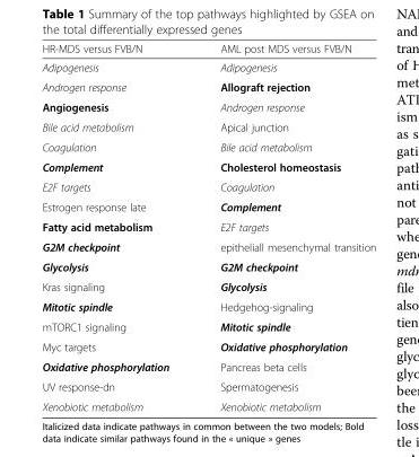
<table><thead><tr><td>HR-MDS versus FVB/N</td><td>AML post MDS versus FVB/N</td></tr></thead><tbody><tr><td>Adipogenesis</td><td>Adipogenesis</td></tr><tr><td>Androgen response</td><td>Allograft rejection</td></tr><tr><td>Angiogenesis</td><td>Androgen response</td></tr><tr><td>Bile acid metabolism</td><td>Apical junction</td></tr><tr><td>Coagulation</td><td>Bile acid metabolism</td></tr><tr><td>Complement</td><td>Cholesterol homeostasis</td></tr><tr><td>E2F targets</td><td>Coagulation</td></tr><tr><td>Estrogen response late</td><td>Complement</td></tr><tr><td>Fatty acid metabolism</td><td>E2F targets</td></tr><tr><td>G2M checkpoint</td><td>epitheliall mesenchymal transition</td></tr><tr><td>Glycolysis</td><td>G2M checkpoint</td></tr><tr><td>Kras signaling</td><td>Glycolysis</td></tr><tr><td>Mitotic spindle</td><td>Hedgehog-signaling</td></tr><tr><td>mTORC1 signaling</td><td>Mitotic spindle</td></tr><tr><td>Myc targets</td><td>Oxidative phosphorylation</td></tr><tr><td>Oxidative phosphorylation</td><td>Pancreas beta cells</td></tr><tr><td>UV response-dn</td><td>Spermatogenesis</td></tr><tr><td>Xenobiotic metabolism</td><td>Xenobiotic metabolism</td></tr></tbody></table>